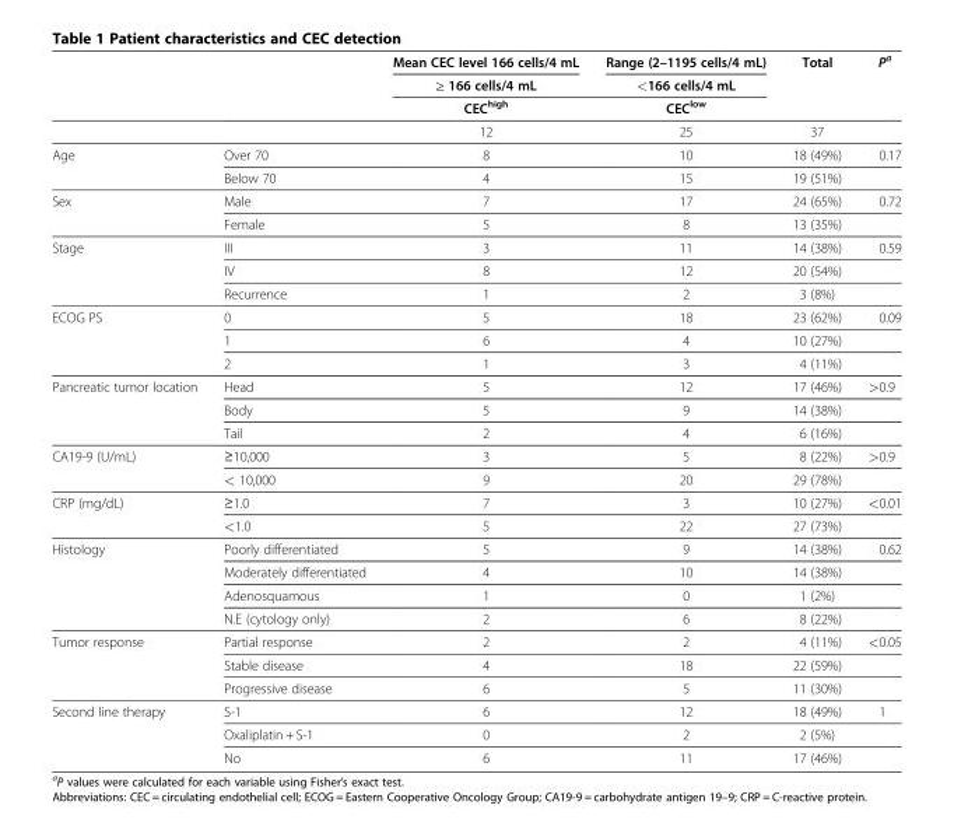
<table><thead><tr><td rowspan="2"></td><td rowspan="2"></td><td rowspan="2">Mean CEC level 166 cells/4 mL ≥ 166 cells/4 mL</td><td rowspan="2">Range (2–1195 cells/4 mL) &lt;166 cells/4 mL</td><td rowspan="2">Total</td><td rowspan="2">P<sup>a</sup></td></tr><tr></tr></thead><tbody><tr><td></td><td></td><td>CEC<sup>high</sup></td><td>CEC<sup>low</sup></td><td></td><td></td></tr><tr><td></td><td></td><td>12</td><td>25</td><td>37</td><td></td></tr><tr><td rowspan="2">Age</td><td>Over 70</td><td>8</td><td>10</td><td>18 (49%)</td><td>0.17</td></tr><tr><td>Below 70</td><td>4</td><td>15</td><td>19 (51%)</td><td></td></tr><tr><td rowspan="2">Sex</td><td>Male</td><td>7</td><td>17</td><td>24 (65%)</td><td>0.72</td></tr><tr><td>Female</td><td>5</td><td>8</td><td>13 (35%)</td><td></td></tr><tr><td rowspan="3">Stage</td><td>III</td><td>3</td><td>11</td><td>14 (38%)</td><td>0.59</td></tr><tr><td>IV</td><td>8</td><td>12</td><td>20 (54%)</td><td></td></tr><tr><td>Recurrence</td><td>1</td><td>2</td><td>3 (8%)</td><td></td></tr><tr><td rowspan="3">ECOG PS</td><td>0</td><td>5</td><td>18</td><td>23 (62%)</td><td>0.09</td></tr><tr><td>1</td><td>6</td><td>4</td><td>10 (27%)</td><td></td></tr><tr><td>2</td><td>1</td><td>3</td><td>4 (11%)</td><td></td></tr><tr><td rowspan="3">Pancreatic tumor location</td><td>Head</td><td>5</td><td>12</td><td>17 (46%)</td><td>&gt;0.9</td></tr><tr><td>Body</td><td>5</td><td>9</td><td>14 (38%)</td><td></td></tr><tr><td>Tail</td><td>2</td><td>4</td><td>6 (16%)</td><td></td></tr><tr><td rowspan="2">CA19-9 (U/mL)</td><td>≥10,000</td><td>3</td><td>5</td><td>8 (22%)</td><td>&gt;0.9</td></tr><tr><td>&lt; 10,000</td><td>9</td><td>20</td><td>29 (78%)</td><td></td></tr><tr><td rowspan="2">CRP (mg/dL)</td><td>≥1.0</td><td>7</td><td>3</td><td>10 (27%)</td><td>&lt;0.01</td></tr><tr><td>&lt;1.0</td><td>5</td><td>22</td><td>27 (73%)</td><td></td></tr><tr><td rowspan="4">Histology</td><td>Poorly differentiated</td><td>5</td><td>9</td><td>14 (38%)</td><td>0.62</td></tr><tr><td>Moderately differentiated</td><td>4</td><td>10</td><td>14 (38%)</td><td></td></tr><tr><td>Adenosquamous</td><td>1</td><td>0</td><td>1 (2%)</td><td></td></tr><tr><td>N.E (cytology only)</td><td>2</td><td>6</td><td>8 (22%)</td><td></td></tr><tr><td rowspan="3">Tumor response</td><td>Partial response</td><td>2</td><td>2</td><td>4 (11%)</td><td>&lt;0.05</td></tr><tr><td>Stable disease</td><td>4</td><td>18</td><td>22 (59%)</td><td></td></tr><tr><td>Progressive disease</td><td>6</td><td>5</td><td>11 (30%)</td><td></td></tr><tr><td rowspan="3">Second line therapy</td><td>S-1</td><td>6</td><td>12</td><td>18 (49%)</td><td>1</td></tr><tr><td>Oxaliplatin + S-1</td><td>0</td><td>2</td><td>2 (5%)</td><td></td></tr><tr><td>No</td><td>6</td><td>11</td><td>17 (46%)</td><td></td></tr></tbody></table>